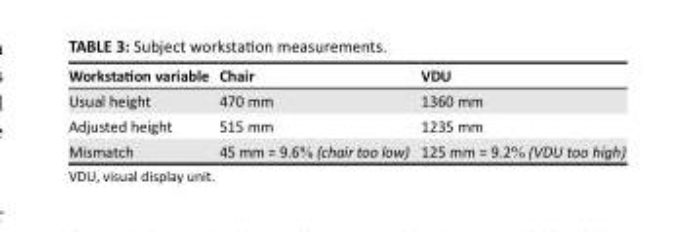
<table><thead><tr><td>Workstation variable</td><td>Chair</td><td>VDU</td></tr></thead><tbody><tr><td>Usual height</td><td>470 mm</td><td>1360 mm</td></tr><tr><td>Adjusted height</td><td>515 mm</td><td>1235 mm</td></tr><tr><td>Mismatch</td><td>45 mm = 9.6% (chair too low)</td><td>125 mm = 9.2% (VDU too high)</td></tr></tbody></table>